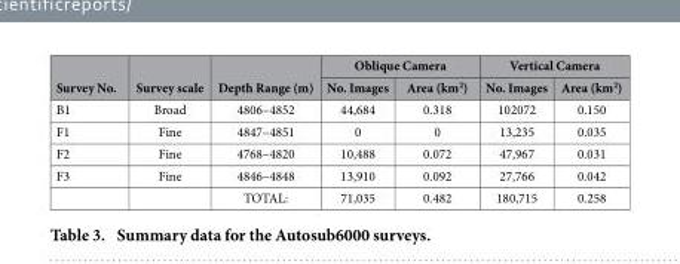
<table><thead><tr><td rowspan="2">Survey No.</td><td rowspan="2">Survey scale</td><td rowspan="2">Depth Range (m)</td><td colspan="2">Oblique Camera</td><td colspan="2">Vertical Camera</td></tr><tr><td>No. Images</td><td>Area (km<sup>2</sup>)</td><td>No. Images</td><td>Area (km<sup>2</sup>)</td></tr></thead><tbody><tr><td>B1</td><td>Broad</td><td>4806–4852</td><td>44,684</td><td>0.318</td><td>102072</td><td>0.150</td></tr><tr><td>F1</td><td>Fine</td><td>4847–4851</td><td>0</td><td>0</td><td>13,235</td><td>0.035</td></tr><tr><td>F2</td><td>Fine</td><td>4768–4820</td><td>10,488</td><td>0.072</td><td>47,967</td><td>0.031</td></tr><tr><td rowspan="2">F3</td><td>Fine</td><td>4846–4848</td><td>13,910</td><td>0.092</td><td>27,766</td><td>0.042</td></tr><tr><td></td><td>TOTAL:</td><td>71,035</td><td>0.482</td><td>180,715</td><td>0.258</td></tr></tbody></table>